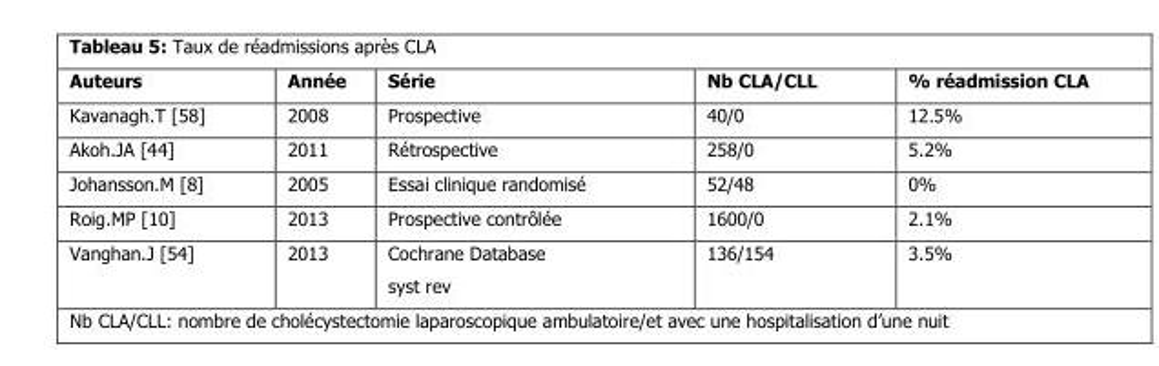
<table><thead><tr><td>Auteurs</td><td>Année</td><td>Série</td><td>Nb CLA/CLL</td><td>% réadmission CLA</td></tr></thead><tbody><tr><td>Kavanagh.T [58]</td><td>2008</td><td>Prospective</td><td>40/0</td><td>12.5%</td></tr><tr><td>Akoh.JA [44]</td><td>2011</td><td>Rétrospective</td><td>258/0</td><td>5.2%</td></tr><tr><td>Johansson.M [8]</td><td>2005</td><td>Essai clinique randomisé</td><td>52/48</td><td>0%</td></tr><tr><td>Roig.MP [10]</td><td>2013</td><td>Prospective contrôlée</td><td>1600/0</td><td>2.1%</td></tr><tr><td>Vanghan.J [54]</td><td>2013</td><td>Cochrane Database syst rev</td><td>136/154</td><td>3.5%</td></tr></tbody></table>